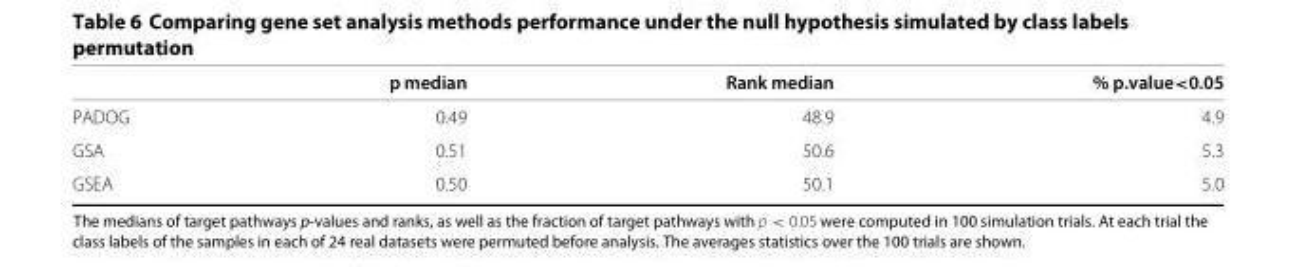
<table><thead><tr><td></td><td>p median</td><td>Rank median</td><td>% p.value&lt;0.05</td></tr></thead><tbody><tr><td>PADOG</td><td>0.49</td><td>48.9</td><td>4.9</td></tr><tr><td>GSA</td><td>0.51</td><td>50.6</td><td>5.3</td></tr><tr><td>GSEA</td><td>0.50</td><td>50.1</td><td>5.0</td></tr></tbody></table>